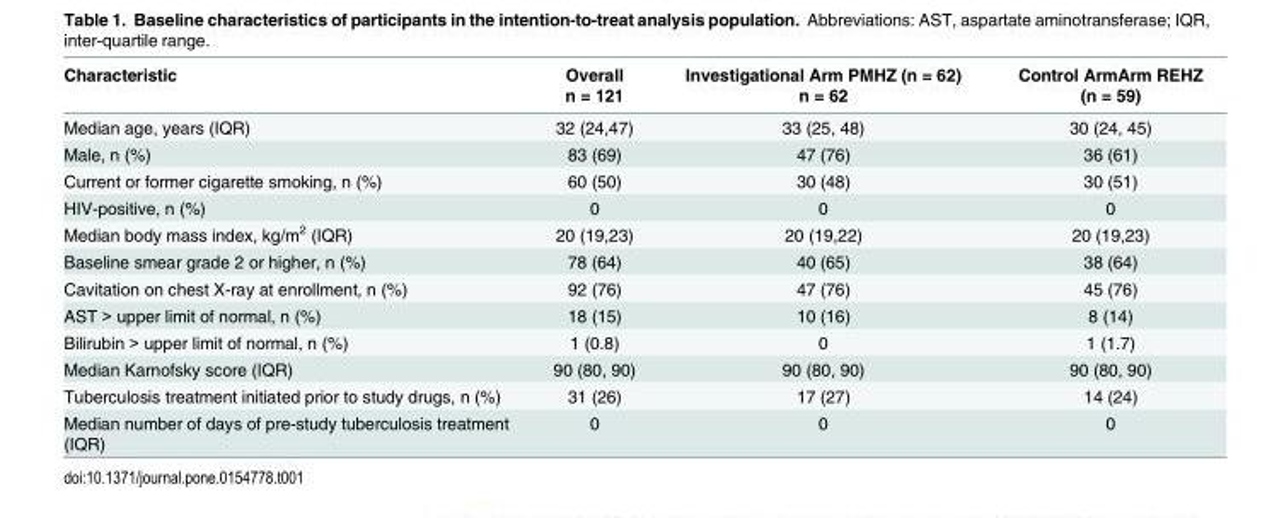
<table><thead><tr><td>Characteristic</td><td>Overall n = 121</td><td>Investigational Arm PMHZ (n = 62) n = 62</td><td>Control ArmArm REHZ (n = 59)</td></tr></thead><tbody><tr><td>Median age, years (IQR)</td><td>32 (24,47)</td><td>33 (25, 48)</td><td>30 (24, 45)</td></tr><tr><td>Male, n (%)</td><td>83 (69)</td><td>47 (76)</td><td>36 (61)</td></tr><tr><td>Current or former cigarette smoking, n (%)</td><td>60 (50)</td><td>30 (48)</td><td>30 (51)</td></tr><tr><td>HIV-positive, n (%)</td><td>0</td><td>0</td><td>0</td></tr><tr><td>Median body mass index, kg/m<sup>2</sup> (IQR)</td><td>20 (19,23)</td><td>20 (19,22)</td><td>20 (19,23)</td></tr><tr><td>Baseline smear grade 2 or higher, n (%)</td><td>78 (64)</td><td>40 (65)</td><td>38 (64)</td></tr><tr><td>Cavitation on chest X-ray at enrollment, n (%)</td><td>92 (76)</td><td>47 (76)</td><td>45 (76)</td></tr><tr><td>AST &gt; upper limit of normal, n (%)</td><td>18 (15)</td><td>10 (16)</td><td>8 (14)</td></tr><tr><td>Bilirubin &gt; upper limit of normal, n (%)</td><td>1 (0.8)</td><td>0</td><td>1 (1.7)</td></tr><tr><td>Median Karnofsky score (IQR)</td><td>90 (80, 90)</td><td>90 (80, 90)</td><td>90 (80, 90)</td></tr><tr><td>Tuberculosis treatment initiated prior to study drugs, n (%)</td><td>31 (26)</td><td>17 (27)</td><td>14 (24)</td></tr><tr><td>Median number of days of pre-study tuberculosis treatment (IQR)</td><td>0</td><td>0</td><td>0</td></tr></tbody></table>